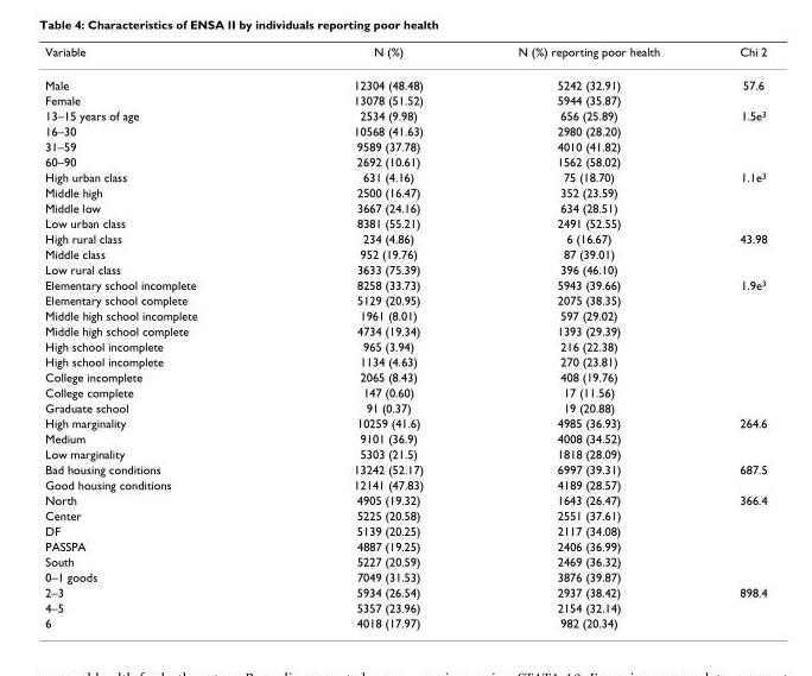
<table><thead><tr><td>Variable</td><td>N (%)</td><td>N (%) reporting poor health</td><td>Chi 2</td></tr></thead><tbody><tr><td>Male</td><td>12304 (48.48)</td><td>5242 (32.91)</td><td>57.6</td></tr><tr><td>Female</td><td>13078 (51.52)</td><td>5944 (35.87)</td><td></td></tr><tr><td>13–15 years of age</td><td>2534 (9.98)</td><td>656 (25.89)</td><td>1.5e<sup>3</sup></td></tr><tr><td>16–30</td><td>10568 (41.63)</td><td>2980 (28.20)</td><td></td></tr><tr><td>31–59</td><td>9589 (37.78)</td><td>4010 (41.82)</td><td></td></tr><tr><td>60–90</td><td>2692 (10.61)</td><td>1562 (58.02)</td><td></td></tr><tr><td>High urban class</td><td>631 (4.16)</td><td>75 (18.70)</td><td>1.1e<sup>3</sup></td></tr><tr><td>Middle high</td><td>2500 (16.47)</td><td>352 (23.59)</td><td></td></tr><tr><td>Middle low</td><td>3667 (24.16)</td><td>634 (28.51)</td><td></td></tr><tr><td>Low urban class</td><td>8381 (55.21)</td><td>2491 (52.55)</td><td></td></tr><tr><td>High rural class</td><td>234 (4.86)</td><td>6 (16.67)</td><td>43.98</td></tr><tr><td>Middle class</td><td>952 (19.76)</td><td>87 (39.01)</td><td></td></tr><tr><td>Low rural class</td><td>3633 (75.39)</td><td>396 (46.10)</td><td></td></tr><tr><td>Elementary school incomplete</td><td>8258 (33.73)</td><td>5943 (39.66)</td><td>1.9e<sup>3</sup></td></tr><tr><td>Elementary school complete</td><td>5129 (20.95)</td><td>2075 (38.35)</td><td></td></tr><tr><td>Middle high school incomplete</td><td>1961 (8.01)</td><td>597 (29.02)</td><td></td></tr><tr><td>Middle high school complete</td><td>4734 (19.34)</td><td>1393 (29.39)</td><td></td></tr><tr><td>High school incomplete</td><td>965 (3.94)</td><td>216 (22.38)</td><td></td></tr><tr><td>High school incomplete</td><td>1134 (4.63)</td><td>270 (23.81)</td><td></td></tr><tr><td>College incomplete</td><td>2065 (8.43)</td><td>408 (19.76)</td><td></td></tr><tr><td>College complete</td><td>147 (0.60)</td><td>17 (11.56)</td><td></td></tr><tr><td>Graduate school</td><td>91 (0.37)</td><td>19 (20.88)</td><td></td></tr><tr><td>High marginality</td><td>10259 (41.6)</td><td>4985 (36.93)</td><td>264.6</td></tr><tr><td>Medium</td><td>9101 (36.9)</td><td>4008 (34.52)</td><td></td></tr><tr><td>Low marginality</td><td>5303 (21.5)</td><td>1818 (28.09)</td><td></td></tr><tr><td>Bad housing conditions</td><td>13242 (52.17)</td><td>6997 (39.31)</td><td>687.5</td></tr><tr><td>Good housing conditions</td><td>12141 (47.83)</td><td>4189 (28.57)</td><td></td></tr><tr><td>North</td><td>4905 (19.32)</td><td>1643 (26.47)</td><td>366.4</td></tr><tr><td>Center</td><td>5225 (20.58)</td><td>2551 (37.61)</td><td></td></tr><tr><td>DF</td><td>5139 (20.25)</td><td>2117 (34.08)</td><td></td></tr><tr><td>PASSPA</td><td>4887 (19.25)</td><td>2406 (36.99)</td><td></td></tr><tr><td>South</td><td>5227 (20.59)</td><td>2469 (36.32)</td><td></td></tr><tr><td>0–1 goods</td><td>7049 (31.53)</td><td>3876 (39.87)</td><td></td></tr><tr><td>2–3</td><td>5934 (26.54)</td><td>2937 (38.42)</td><td>898.4</td></tr><tr><td>4–5</td><td>5357 (23.96)</td><td>2154 (32.14)</td><td></td></tr><tr><td>6</td><td>4018 (17.97)</td><td>982 (20.34)</td><td></td></tr></tbody></table>